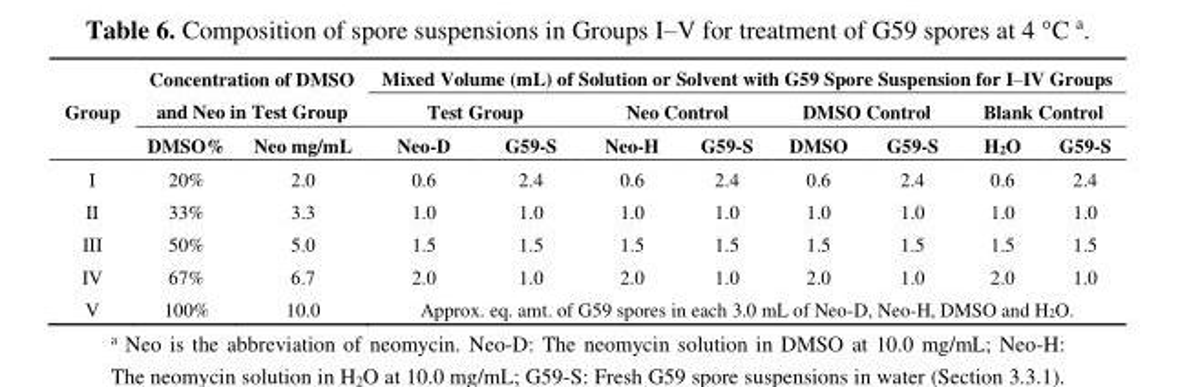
<table><thead><tr><td rowspan="3">Group</td><td rowspan="2" colspan="2">Concentration of DMSO and Neo in Test Group</td><td colspan="8">Mixed Volume (mL) of Solution or Solvent with G59 Spore Suspension for I–IV Groups</td></tr><tr><td colspan="2">Test Group</td><td colspan="2">Neo Control</td><td colspan="2">DMSO Control</td><td colspan="2">Blank Control</td></tr><tr><td>DMSO%</td><td>Neo mg/mL</td><td>Neo-D</td><td>G59-S</td><td>Neo-H</td><td>G59-S</td><td>DMSO</td><td>G59-S</td><td>H<sub>2</sub>O</td><td>G59-S</td></tr></thead><tbody><tr><td>I</td><td>20%</td><td>2.0</td><td>0.6</td><td>2.4</td><td>0.6</td><td>2.4</td><td>0.6</td><td>2.4</td><td>0.6</td><td>2.4</td></tr><tr><td>II</td><td>33%</td><td>3.3</td><td>1.0</td><td>1.0</td><td>1.0</td><td>1.0</td><td>1.0</td><td>1.0</td><td>1.0</td><td>1.0</td></tr><tr><td>III</td><td>50%</td><td>5.0</td><td>1.5</td><td>1.5</td><td>1.5</td><td>1.5</td><td>1.5</td><td>1.5</td><td>1.5</td><td>1.5</td></tr><tr><td>IV</td><td>67%</td><td>6.7</td><td>2.0</td><td>1.0</td><td>2.0</td><td>1.0</td><td>2.0</td><td>1.0</td><td>2.0</td><td>1.0</td></tr><tr><td>V</td><td>100%</td><td>10.0</td><td colspan="8">Approx. eq. amt. of G59 spores in each 3.0 mL of Neo-D, Neo-H, DMSO and H<sub>2</sub>O.</td></tr></tbody></table>